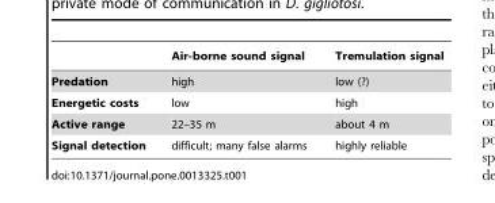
<table><thead><tr><td></td><td>Air-borne sound signal</td><td>Tremulation signal</td></tr></thead><tbody><tr><td>Predation</td><td>high</td><td>low (?)</td></tr><tr><td>Energetic costs</td><td>low</td><td>high</td></tr><tr><td>Active range</td><td>22–35 m</td><td>about 4 m</td></tr><tr><td>Signal detection</td><td>difficult; many false alarms</td><td>highly reliable</td></tr></tbody></table>